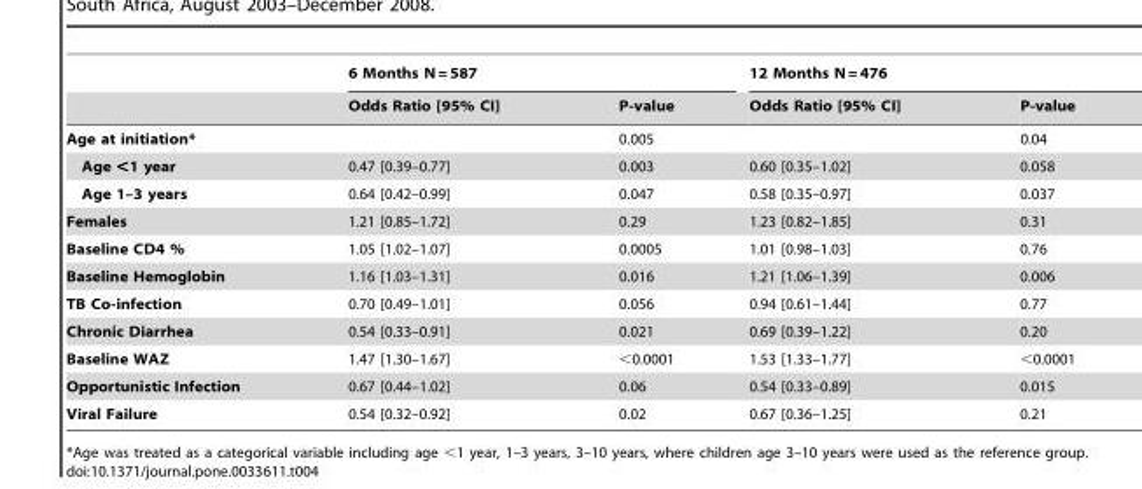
<table><thead><tr><td rowspan="2"></td><td colspan="2">6 Months N = 587</td><td colspan="2">12 Months N = 476</td></tr><tr><td>Odds Ratio [95% CI]</td><td>P-value</td><td>Odds Ratio [95% CI]</td><td>P-value</td></tr></thead><tbody><tr><td>Age at initiation*</td><td></td><td>0.005</td><td></td><td>0.04</td></tr><tr><td>Age &lt;1 year</td><td>0.47 [0.39–0.77]</td><td>0.003</td><td>0.60 [0.35–1.02]</td><td>0.058</td></tr><tr><td>Age 1–3 years</td><td>0.64 [0.42–0.99]</td><td>0.047</td><td>0.58 [0.35–0.97]</td><td>0.037</td></tr><tr><td>Females</td><td>1.21 [0.85–1.72]</td><td>0.29</td><td>1.23 [0.82–1.85]</td><td>0.31</td></tr><tr><td>Baseline CD4 %</td><td>1.05 [1.02–1.07]</td><td>0.0005</td><td>1.01 [0.98–1.03]</td><td>0.76</td></tr><tr><td>Baseline Hemoglobin</td><td>1.16 [1.03–1.31]</td><td>0.016</td><td>1.21 [1.06–1.39]</td><td>0.006</td></tr><tr><td>TB Co-infection</td><td>0.70 [0.49–1.01]</td><td>0.056</td><td>0.94 [0.61–1.44]</td><td>0.77</td></tr><tr><td>Chronic Diarrhea</td><td>0.54 [0.33–0.91]</td><td>0.021</td><td>0.69 [0.39–1.22]</td><td>0.20</td></tr><tr><td>Baseline WAZ</td><td>1.47 [1.30–1.67]</td><td>&lt;0.0001</td><td>1.53 [1.33–1.77]</td><td>&lt;0.0001</td></tr><tr><td>Opportunistic Infection</td><td>0.67 [0.44–1.02]</td><td>0.06</td><td>0.54 [0.33–0.89]</td><td>0.015</td></tr><tr><td>Viral Failure</td><td>0.54 [0.32–0.92]</td><td>0.02</td><td>0.67 [0.36–1.25]</td><td>0.21</td></tr></tbody></table>